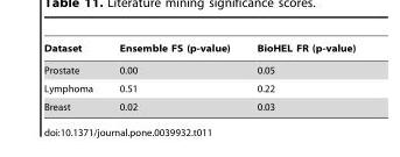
<table><thead><tr><td>Dataset</td><td>Ensemble FS (p-value)</td><td>BioHEL FR (p-value)</td></tr></thead><tbody><tr><td>Prostate</td><td>0.00</td><td>0.05</td></tr><tr><td>Lymphoma</td><td>0.51</td><td>0.22</td></tr><tr><td>Breast</td><td>0.02</td><td>0.03</td></tr></tbody></table>